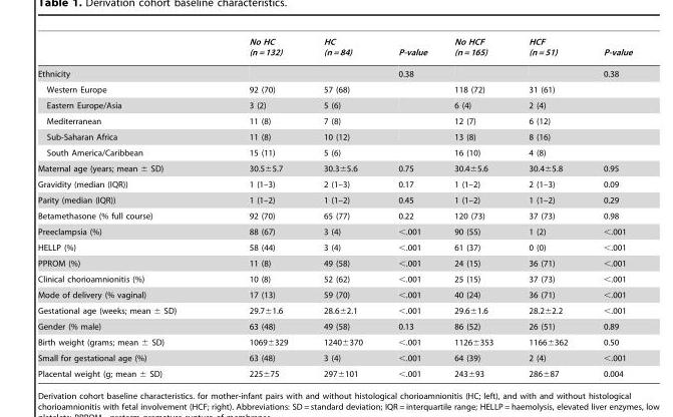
<table><thead><tr><td></td><td>No HC (n = 132)</td><td>HC (n = 84)</td><td>P-value</td><td>No HCF (n = 165)</td><td>HCF (n = 51)</td><td>P-value</td></tr></thead><tbody><tr><td>Ethnicity</td><td></td><td></td><td>0.38</td><td></td><td></td><td>0.38</td></tr><tr><td>Western Europe</td><td>92 (70)</td><td>57 (68)</td><td></td><td>118 (72)</td><td>31 (61)</td><td></td></tr><tr><td>Eastern Europe/Asia</td><td>3 (2)</td><td>5 (6)</td><td></td><td>6 (4)</td><td>2 (4)</td><td></td></tr><tr><td>Mediterranean</td><td>11 (8)</td><td>7 (8)</td><td></td><td>12 (7)</td><td>6 (12)</td><td></td></tr><tr><td>Sub-Saharan Africa</td><td>11 (8)</td><td>10 (12)</td><td></td><td>13 (8)</td><td>8 (16)</td><td></td></tr><tr><td>South America/Caribbean</td><td>15 (11)</td><td>5 (6)</td><td></td><td>16 (10)</td><td>4 (8)</td><td></td></tr><tr><td>Maternal age (years; mean ± SD)</td><td>30.5±5.7</td><td>30.3±5.6</td><td>0.75</td><td>30.4±5.6</td><td>30.4±5.8</td><td>0.95</td></tr><tr><td>Gravidity (median (IQR))</td><td>1 (1–3)</td><td>2 (1–3)</td><td>0.17</td><td>1 (1–2)</td><td>2 (1–3)</td><td>0.09</td></tr><tr><td>Parity (median (IQR))</td><td>1 (1–2)</td><td>1 (1–2)</td><td>0.45</td><td>1 (1–2)</td><td>1 (1–2)</td><td>0.29</td></tr><tr><td>Betamethasone (% full course)</td><td>92 (70)</td><td>65 (77)</td><td>0.22</td><td>120 (73)</td><td>37 (73)</td><td>0.98</td></tr><tr><td>Preeclampsia (%)</td><td>88 (67)</td><td>3 (4)</td><td>&lt;.001</td><td>90 (55)</td><td>1 (2)</td><td>&lt;.001</td></tr><tr><td>HELLP (%)</td><td>58 (44)</td><td>3 (4)</td><td>&lt;.001</td><td>61 (37)</td><td>0 (0)</td><td>&lt;.001</td></tr><tr><td>PPROM (%)</td><td>11 (8)</td><td>49 (58)</td><td>&lt;.001</td><td>24 (15)</td><td>36 (71)</td><td>&lt;.001</td></tr><tr><td>Clinical chorioamnionitis (%)</td><td>10 (8)</td><td>52 (62)</td><td>&lt;.001</td><td>25 (15)</td><td>37 (73)</td><td>&lt;.001</td></tr><tr><td>Mode of delivery (% vaginal)</td><td>17 (13)</td><td>59 (70)</td><td>&lt;.001</td><td>40 (24)</td><td>36 (71)</td><td>&lt;.001</td></tr><tr><td>Gestational age (weeks; mean ± SD)</td><td>29.7±1.6</td><td>28.6±2.1</td><td>&lt;.001</td><td>29.6±1.6</td><td>28.2±2.2</td><td>&lt;.001</td></tr><tr><td>Gender (% male)</td><td>63 (48)</td><td>49 (58)</td><td>0.13</td><td>86 (52)</td><td>26 (51)</td><td>0.89</td></tr><tr><td>Birth weight (grams; mean ± SD)</td><td>1069±329</td><td>1240±370</td><td>&lt;.001</td><td>1126±353</td><td>1166±362</td><td>0.50</td></tr><tr><td>Small for gestational age (%)</td><td>63 (48)</td><td>3 (4)</td><td>&lt;.001</td><td>64 (39)</td><td>2 (4)</td><td>&lt;.001</td></tr><tr><td>Placental weight (g; mean ± SD)</td><td>225±75</td><td>297±101</td><td>&lt;.001</td><td>243±93</td><td>286±87</td><td>0.004</td></tr></tbody></table>